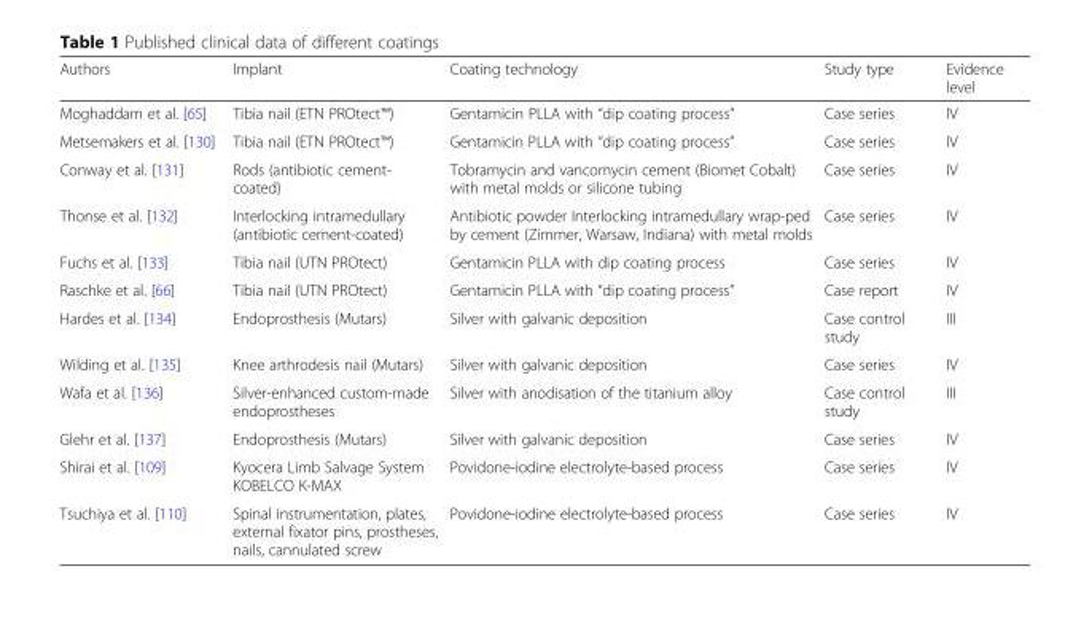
<table><thead><tr><td>Authors</td><td>Implant</td><td>Coating technology</td><td>Study type</td><td>Evidence level</td></tr></thead><tbody><tr><td>Moghaddam et al. [65]</td><td>Tibia nail (ETN PROtect™)</td><td>Gentamicin PLLA with “dip coating process”</td><td>Case series</td><td>IV</td></tr><tr><td>Metsemakers et al. [130]</td><td>Tibia nail (ETN PROtect™)</td><td>Gentamicin PLLA with “dip coating process”</td><td>Case series</td><td>IV</td></tr><tr><td>Conway et al. [131]</td><td>Rods (antibiotic cement- coated)</td><td>Tobramycin and vancomycin cement (Biomet Cobalt) with metal molds or silicone tubing</td><td>Case series</td><td>IV</td></tr><tr><td>Thonse et al. [132]</td><td>Interlocking intramedullary (antibiotic cement-coated)</td><td>Antibiotic powder Interlocking intramedullary wrap-ped by cement (Zimmer, Warsaw, Indiana) with metal molds</td><td>Case series</td><td>IV</td></tr><tr><td>Fuchs et al. [133]</td><td>Tibia nail (UTN PROtect)</td><td>Gentamicin PLLA with dip coating process</td><td>Case series</td><td>IV</td></tr><tr><td>Raschke et al. [66]</td><td>Tibia nail (UTN PROtect)</td><td>Gentamicin PLLA with “dip coating process”</td><td>Case report</td><td>IV</td></tr><tr><td>Hardes et al. [134]</td><td>Endoprosthesis (Mutars)</td><td>Silver with galvanic deposition</td><td>Case control study</td><td>III</td></tr><tr><td>Wilding et al. [135]</td><td>Knee arthrodesis nail (Mutars)</td><td>Silver with galvanic deposition</td><td>Case series</td><td>IV</td></tr><tr><td>Wafa et al. [136]</td><td>Silver-enhanced custom-made endoprostheses</td><td>Silver with anodisation of the titanium alloy</td><td>Case control study</td><td>III</td></tr><tr><td>Glehr et al. [137]</td><td>Endoprosthesis (Mutars)</td><td>Silver with galvanic deposition</td><td>Case series</td><td>IV</td></tr><tr><td>Shirai et al. [109]</td><td>Kyocera Limb Salvage System KOBELCO K-MAX</td><td>Povidone-iodine electrolyte-based process</td><td>Case series</td><td>IV</td></tr><tr><td>Tsuchiya et al. [110]</td><td>Spinal instrumentation, plates, external fixator pins, prostheses, nails, cannulated screw</td><td>Povidone-iodine electrolyte-based process</td><td>Case series</td><td>IV</td></tr></tbody></table>